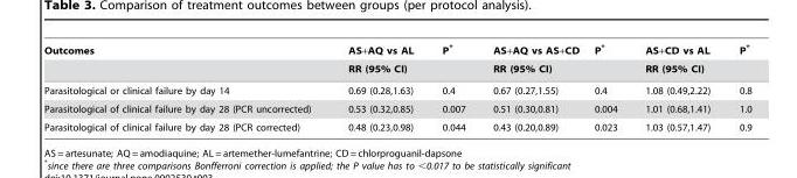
<table><thead><tr><td rowspan="2">Outcomes</td><td rowspan="2">AS+AQ vs AL RR (95% CI)</td><td rowspan="2">P*</td><td rowspan="2">AS+AQ vs AS+CD RR (95% CI)</td><td rowspan="2">P*</td><td rowspan="2">AS+CD vs AL RR (95% CI)</td><td rowspan="2">P*</td></tr><tr></tr></thead><tbody><tr><td>Parasitological or clinical failure by day 14</td><td>0.69 (0.28,1.63)</td><td>0.4</td><td>0.67 (0.27,1.55)</td><td>0.4</td><td>1.08 (0.49,2.22)</td><td>0.8</td></tr><tr><td>Parasitological of clinical failure by day 28 (PCR uncorrected)</td><td>0.53 (0.32,0.85)</td><td>0.007</td><td>0.51 (0.30,0.81)</td><td>0.004</td><td>1.01 (0.68,1.41)</td><td>1.0</td></tr><tr><td>Parasitological of clinical failure by day 28 (PCR corrected)</td><td>0.48 (0.23,0.98)</td><td>0.044</td><td>0.43 (0.20,0.89)</td><td>0.023</td><td>1.03 (0.57,1.47)</td><td>0.9</td></tr></tbody></table>